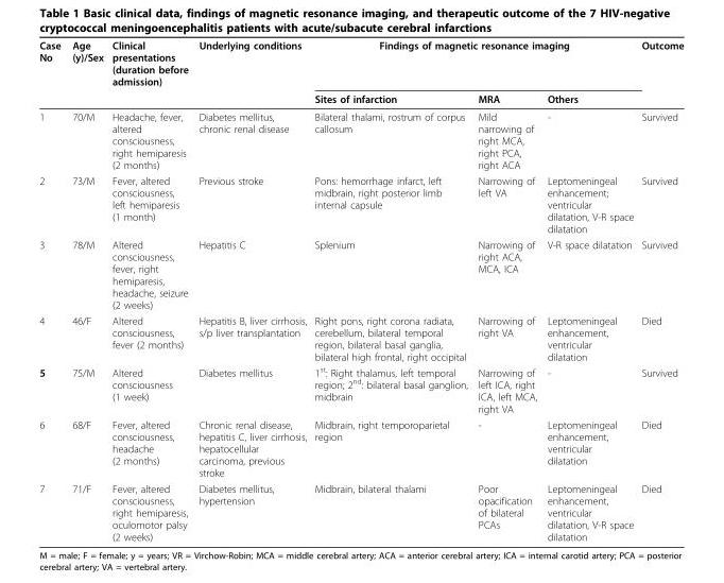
<table><thead><tr><td rowspan="2">Case No</td><td rowspan="2">Age (y)/Sex</td><td rowspan="2">Clinical presentations (duration before admission)</td><td rowspan="2">Underlying conditions</td><td colspan="3">Findings of magnetic resonance imaging</td><td rowspan="2">Outcome</td></tr><tr><td>Sites of infarction</td><td>MRA</td><td>Others</td></tr></thead><tbody><tr><td>1</td><td>70/M</td><td>Headache, fever, altered consciousness, right hemiparesis (2 months)</td><td>Diabetes mellitus, chronic renal disease</td><td>Bilateral thalami, rostrum of corpus callosum</td><td>Mild narrowing of right MCA, right PCA, right ACA</td><td>-</td><td>Survived</td></tr><tr><td>2</td><td>73/M</td><td>Fever, altered consciousness, left hemiparesis (1 month)</td><td>Previous stroke</td><td>Pons: hemorrhage infarct, left midbrain, right posterior limb internal capsule</td><td>Narrowing of left VA</td><td>Leptomeningeal enhancement; ventricular dilatation, V-R space dilatation</td><td>Survived</td></tr><tr><td>3</td><td>78/M</td><td>Altered consciousness, fever, right hemiparesis, headache, seizure (2 weeks)</td><td>Hepatitis C</td><td>Splenium</td><td>Narrowing of right ACA, MCA, ICA</td><td>V-R space dilatation</td><td>Survived</td></tr><tr><td>4</td><td>46/F</td><td>Altered consciousness, fever (2 months)</td><td>Hepatitis B, liver cirrhosis, s/p liver transplantation</td><td>Right pons, right corona radiata, cerebellum, bilateral temporal region, bilateral basal ganglia, bilateral high frontal, right occipital</td><td>Narrowing of right VA</td><td>Leptomeningeal enhancement, ventricular dilatation</td><td>Died</td></tr><tr><td>5</td><td>75/M</td><td>Altered consciousness (1 week)</td><td>Diabetes mellitus</td><td>1<sup>st</sup>: Right thalamus, left temporal region; 2<sup>nd</sup>: bilateral basal ganglion, midbrain</td><td>Narrowing of left ICA, right ICA, left MCA, right VA</td><td>-</td><td>Survived</td></tr><tr><td>6</td><td>68/F</td><td>Fever, altered consciousness, headache (2 months)</td><td>Chronic renal disease, hepatitis C, liver cirrhosis, hepatocellular carcinoma, previous stroke</td><td>Midbrain, right temporoparietal region</td><td>-</td><td>Leptomeningeal enhancement, ventricular dilatation</td><td>Died</td></tr><tr><td>7</td><td>71/F</td><td>Fever, altered consciousness, right hemiparesis, oculomotor palsy (2 weeks)</td><td>Diabetes mellitus, hypertension</td><td>Midbrain, bilateral thalami</td><td>Poor opacification of bilateral PCAs</td><td>Leptomeningeal enhancement, ventricular dilatation, V-R space dilatation</td><td>Died</td></tr></tbody></table>